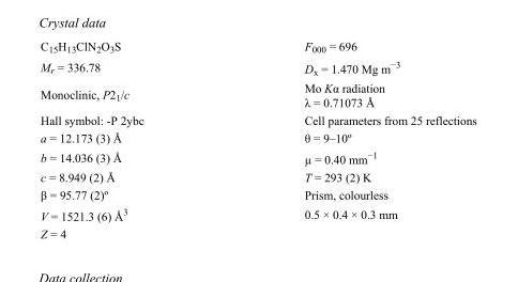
<table><tbody><tr><td>C<sub>15</sub>H<sub>13</sub>ClN<sub>2</sub>O<sub>3</sub>S</td><td>F000 = 696</td></tr><tr><td>M<sub>r</sub> = 336.78</td><td>D<sub>x</sub> = 1.470 Mg m<sup>−3</sup></td></tr><tr><td>Monoclinic, P2<sub>1</sub>/c</td><td>Mo Kα radiation λ = 0.71073 Å</td></tr><tr><td>Hall symbol: -P 2ybc</td><td>Cell parameters from 25 reflections</td></tr><tr><td>a = 12.173 (3) Å</td><td>θ = 9–10º</td></tr><tr><td>b = 14.036 (3) Å</td><td>µ = 0.40 mm<sup>−1</sup></td></tr><tr><td>c = 8.949 (2) Å</td><td>T = 293 (2) K</td></tr><tr><td>β = 95.77 (2)º</td><td>Prism, colourless</td></tr><tr><td>V = 1521.3 (6) Å<sup>3</sup></td><td>0.5 × 0.4 × 0.3 mm</td></tr><tr><td>Z = 4</td><td></td></tr></tbody></table>